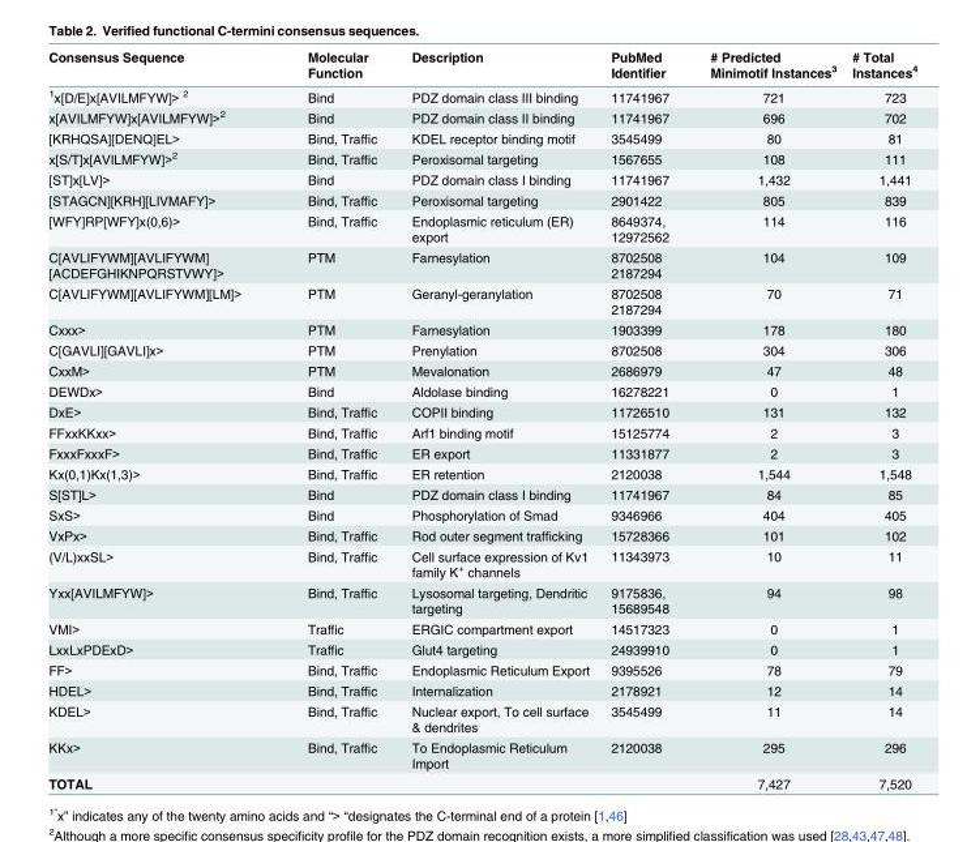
<table><thead><tr><td>Consensus Sequence</td><td>Molecular Function</td><td>Description</td><td>PubMed Identifier</td><td># Predicted Minimotif Instances<sup>3</sup></td><td># Total Instances<sup>4</sup></td></tr></thead><tbody><tr><td><sup>1</sup>x[D/E]x[AVILMFYW]&gt; <sup>2</sup></td><td>Bind</td><td>PDZ domain class III binding</td><td>11741967</td><td>721</td><td>723</td></tr><tr><td>x[AVILMFYW]x[AVILMFYW]&gt;<sup>2</sup></td><td>Bind</td><td>PDZ domain class II binding</td><td>11741967</td><td>696</td><td>702</td></tr><tr><td>[KRHQSA][DENQ]EL&gt;</td><td>Bind, Traffic</td><td>KDEL receptor binding motif</td><td>3545499</td><td>80</td><td>81</td></tr><tr><td>x[S/T]x[AVILMFYW]&gt;<sup>2</sup></td><td>Bind, Traffic</td><td>Peroxisomal targeting</td><td>1567655</td><td>108</td><td>111</td></tr><tr><td>[ST]x[LV]&gt;</td><td>Bind</td><td>PDZ domain class I binding</td><td>11741967</td><td>1,432</td><td>1,441</td></tr><tr><td>[STAGCN][KRH][LIVMAFY]&gt;</td><td>Bind, Traffic</td><td>Peroxisomal targeting</td><td>2901422</td><td>805</td><td>839</td></tr><tr><td>[WFY]RP[WFY]x(0,6)&gt;</td><td>Bind, Traffic</td><td>Endoplasmic reticulum (ER) export</td><td>8649374, 12972562</td><td>114</td><td>116</td></tr><tr><td>C[AVLIFYWM][AVLIFYWM] [ACDEFGHIKNPQRSTVWY]&gt;</td><td>PTM</td><td>Farnesylation</td><td>8702508 2187294</td><td>104</td><td>109</td></tr><tr><td>C[AVLIFYWM][AVLIFYWM][LM]&gt;</td><td>PTM</td><td>Geranyl-geranylation</td><td>8702508 2187294</td><td>70</td><td>71</td></tr><tr><td>Cxxx&gt;</td><td>PTM</td><td>Farnesylation</td><td>1903399</td><td>178</td><td>180</td></tr><tr><td>C[GAVLI][GAVLI]x&gt;</td><td>PTM</td><td>Prenylation</td><td>8702508</td><td>304</td><td>306</td></tr><tr><td>CxxM&gt;</td><td>PTM</td><td>Mevalonation</td><td>2686979</td><td>47</td><td>48</td></tr><tr><td>DEWDx&gt;</td><td>Bind</td><td>Aldolase binding</td><td>16278221</td><td>0</td><td>1</td></tr><tr><td>DxE&gt;</td><td>Bind, Traffic</td><td>COPII binding</td><td>11726510</td><td>131</td><td>132</td></tr><tr><td>FFxxKKxx&gt;</td><td>Bind, Traffic</td><td>Arf1 binding motif</td><td>15125774</td><td>2</td><td>3</td></tr><tr><td>FxxxFxxxF&gt;</td><td>Bind, Traffic</td><td>ER export</td><td>11331877</td><td>2</td><td>3</td></tr><tr><td>Kx(0,1)Kx(1,3)&gt;</td><td>Bind, Traffic</td><td>ER retention</td><td>2120038</td><td>1,544</td><td>1,548</td></tr><tr><td>S[ST]L&gt;</td><td>Bind</td><td>PDZ domain class I binding</td><td>11741967</td><td>84</td><td>85</td></tr><tr><td>SxS&gt;</td><td>Bind</td><td>Phosphorylation of Smad</td><td>9346966</td><td>404</td><td>405</td></tr><tr><td>VxPx&gt;</td><td>Bind, Traffic</td><td>Rod outer segment trafficking</td><td>15728366</td><td>101</td><td>102</td></tr><tr><td>(V/L)xxSL&gt;</td><td>Bind, Traffic</td><td>Cell surface expression of Kv1 family K<sup>+</sup> channels</td><td>11343973</td><td>10</td><td>11</td></tr><tr><td>Yxx[AVILMFYW]&gt;</td><td>Bind, Traffic</td><td>Lysosomal targeting, Dendritic targeting</td><td>9175836, 15689548</td><td>94</td><td>98</td></tr><tr><td>VMI&gt;</td><td>Traffic</td><td>ERGIC compartment export</td><td>14517323</td><td>0</td><td>1</td></tr><tr><td>LxxLxPDExD&gt;</td><td>Traffic</td><td>Glut4 targeting</td><td>24939910</td><td>0</td><td>1</td></tr><tr><td>FF&gt;</td><td>Bind, Traffic</td><td>Endoplasmic Reticulum Export</td><td>9395526</td><td>78</td><td>79</td></tr><tr><td>HDEL&gt;</td><td>Bind, Traffic</td><td>Internalization</td><td>2178921</td><td>12</td><td>14</td></tr><tr><td>KDEL&gt;</td><td>Bind, Traffic</td><td>Nuclear export, To cell surface &amp; dendrites</td><td>3545499</td><td>11</td><td>14</td></tr><tr><td>KKx&gt;</td><td>Bind, Traffic</td><td>To Endoplasmic Reticulum Import</td><td>2120038</td><td>295</td><td>296</td></tr><tr><td colspan="4">TOTAL</td><td>7,427</td><td>7,520</td></tr></tbody></table>